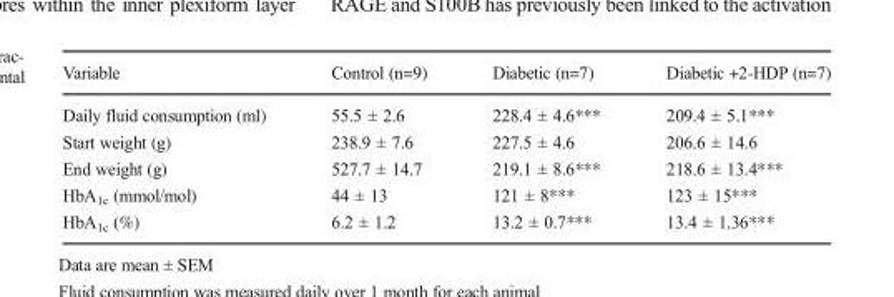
<table><thead><tr><td>Variable</td><td>Control (n=9)</td><td>Diabetic (n=7)</td><td>Diabetic +2-HDP (n=7)</td></tr></thead><tbody><tr><td>Daily fluid consumption (ml)</td><td>55.5 ± 2.6</td><td>228.4 ± 4.6***</td><td>209.4 ± 5.1***</td></tr><tr><td>Start weight (g)</td><td>238.9 ± 7.6</td><td>227.5 ± 4.6</td><td>206.6 ± 14.6</td></tr><tr><td>End weight (g)</td><td>527.7 ± 14.7</td><td>219.1 ± 8.6***</td><td>218.6 ± 13.4***</td></tr><tr><td>HbA<sub>1c</sub> (mmol/mol)</td><td>44 ± 13</td><td>121 ± 8***</td><td>123 ± 15***</td></tr><tr><td>HbA<sub>1c</sub> (%)</td><td>6.2 ± 1.2</td><td>13.2 ± 0.7***</td><td>13.4 ± 1.36***</td></tr></tbody></table>